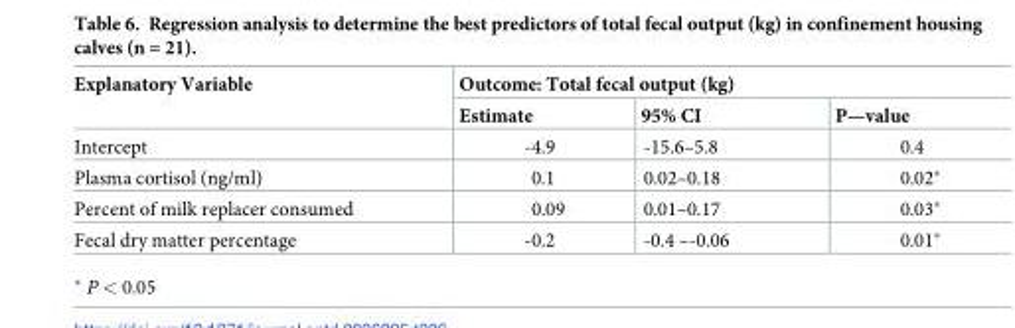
<table><thead><tr><td rowspan="2">Explanatory Variable</td><td colspan="3">Outcome: Total fecal output (kg)</td></tr><tr><td>Estimate</td><td>95% CI</td><td>P—value</td></tr></thead><tbody><tr><td>Intercept</td><td>-4.9</td><td>-15.6–5.8</td><td>0.4</td></tr><tr><td>Plasma cortisol (ng/ml)</td><td>0.1</td><td>0.02–0.18</td><td>0.02*</td></tr><tr><td>Percent of milk replacer consumed</td><td>0.09</td><td>0.01–0.17</td><td>0.03*</td></tr><tr><td>Fecal dry matter percentage</td><td>-0.2</td><td>-0.4 –-0.06</td><td>0.01*</td></tr></tbody></table>